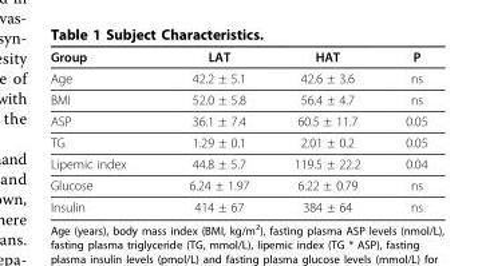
<table><thead><tr><td>Group</td><td>LAT</td><td>HAT</td><td>P</td></tr></thead><tbody><tr><td>Age</td><td>42.2 ± 5.1</td><td>42.6 ± 3.6</td><td>ns</td></tr><tr><td>BMI</td><td>52.0 ± 5.8</td><td>56.4 ± 4.7</td><td>ns</td></tr><tr><td>ASP</td><td>36.1 ± 7.4</td><td>60.5 ± 11.7</td><td>0.05</td></tr><tr><td>TG</td><td>1.29 ± 0.1</td><td>2.01 ± 0.2</td><td>0.05</td></tr><tr><td>Lipemic index</td><td>44.8 ± 5.7</td><td>119.5 ± 22.2</td><td>0.04</td></tr><tr><td>Glucose</td><td>6.24 ± 1.97</td><td>6.22 ± 0.79</td><td>ns</td></tr><tr><td>Insulin</td><td>414 ± 67</td><td>384 ± 64</td><td>ns</td></tr></tbody></table>